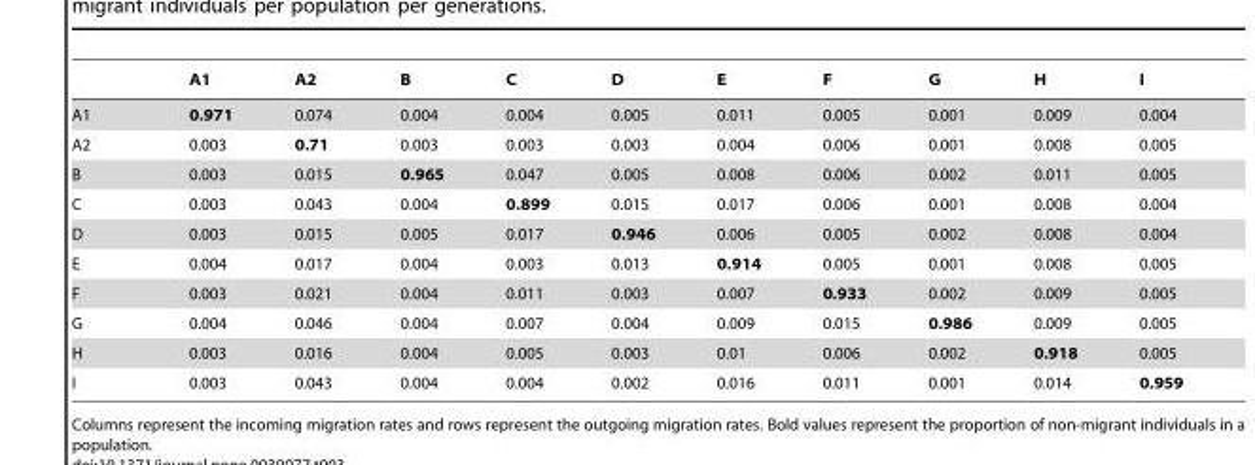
<table><thead><tr><td></td><td>A1</td><td>A2</td><td>B</td><td>C</td><td>D</td><td>E</td><td>F</td><td>G</td><td>H</td><td>I</td></tr></thead><tbody><tr><td>A1</td><td>0.971</td><td>0.074</td><td>0.004</td><td>0.004</td><td>0.005</td><td>0.011</td><td>0.005</td><td>0.001</td><td>0.009</td><td>0.004</td></tr><tr><td>A2</td><td>0.003</td><td>0.71</td><td>0.003</td><td>0.003</td><td>0.003</td><td>0.004</td><td>0.006</td><td>0.001</td><td>0.008</td><td>0.005</td></tr><tr><td>B</td><td>0.003</td><td>0.015</td><td>0.965</td><td>0.047</td><td>0.005</td><td>0.008</td><td>0.006</td><td>0.002</td><td>0.011</td><td>0.005</td></tr><tr><td>C</td><td>0.003</td><td>0.043</td><td>0.004</td><td>0.899</td><td>0.015</td><td>0.017</td><td>0.006</td><td>0.001</td><td>0.008</td><td>0.004</td></tr><tr><td>D</td><td>0.003</td><td>0.015</td><td>0.005</td><td>0.017</td><td>0.946</td><td>0.006</td><td>0.005</td><td>0.002</td><td>0.008</td><td>0.004</td></tr><tr><td>E</td><td>0.004</td><td>0.017</td><td>0.004</td><td>0.003</td><td>0.013</td><td>0.914</td><td>0.005</td><td>0.001</td><td>0.008</td><td>0.005</td></tr><tr><td>F</td><td>0.003</td><td>0.021</td><td>0.004</td><td>0.011</td><td>0.003</td><td>0.007</td><td>0.933</td><td>0.002</td><td>0.009</td><td>0.005</td></tr><tr><td>G</td><td>0.004</td><td>0.046</td><td>0.004</td><td>0.007</td><td>0.004</td><td>0.009</td><td>0.015</td><td>0.986</td><td>0.009</td><td>0.005</td></tr><tr><td>H</td><td>0.003</td><td>0.016</td><td>0.004</td><td>0.005</td><td>0.003</td><td>0.01</td><td>0.006</td><td>0.002</td><td>0.918</td><td>0.005</td></tr><tr><td>I</td><td>0.003</td><td>0.043</td><td>0.004</td><td>0.004</td><td>0.002</td><td>0.016</td><td>0.011</td><td>0.001</td><td>0.014</td><td>0.959</td></tr></tbody></table>